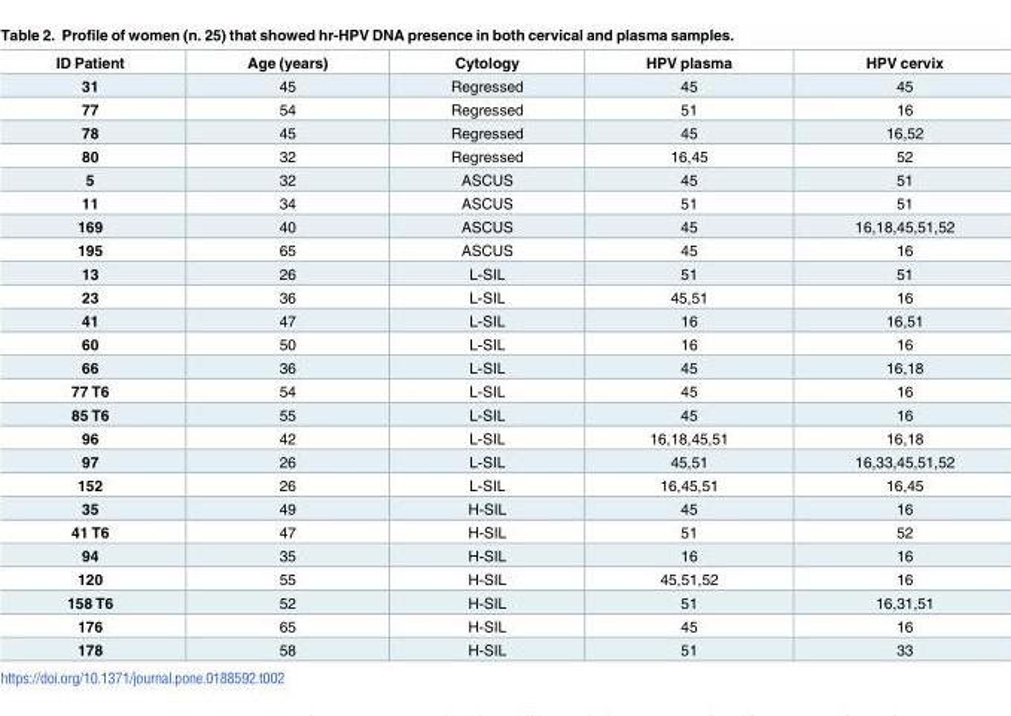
<table><thead><tr><td>ID Patient</td><td>Age (years)</td><td>Cytology</td><td>HPV plasma</td><td>HPV cervix</td></tr></thead><tbody><tr><td>31</td><td>45</td><td>Regressed</td><td>45</td><td>45</td></tr><tr><td>77</td><td>54</td><td>Regressed</td><td>51</td><td>16</td></tr><tr><td>78</td><td>45</td><td>Regressed</td><td>45</td><td>16,52</td></tr><tr><td>80</td><td>32</td><td>Regressed</td><td>16,45</td><td>52</td></tr><tr><td>5</td><td>32</td><td>ASCUS</td><td>45</td><td>51</td></tr><tr><td>11</td><td>34</td><td>ASCUS</td><td>51</td><td>51</td></tr><tr><td>169</td><td>40</td><td>ASCUS</td><td>45</td><td>16,18,45,51,52</td></tr><tr><td>195</td><td>65</td><td>ASCUS</td><td>45</td><td>16</td></tr><tr><td>13</td><td>26</td><td>L-SIL</td><td>51</td><td>51</td></tr><tr><td>23</td><td>36</td><td>L-SIL</td><td>45,51</td><td>16</td></tr><tr><td>41</td><td>47</td><td>L-SIL</td><td>16</td><td>16,51</td></tr><tr><td>60</td><td>50</td><td>L-SIL</td><td>16</td><td>16</td></tr><tr><td>66</td><td>36</td><td>L-SIL</td><td>45</td><td>16,18</td></tr><tr><td>77 T6</td><td>54</td><td>L-SIL</td><td>45</td><td>16</td></tr><tr><td>85 T6</td><td>55</td><td>L-SIL</td><td>45</td><td>16</td></tr><tr><td>96</td><td>42</td><td>L-SIL</td><td>16,18,45,51</td><td>16,18</td></tr><tr><td>97</td><td>26</td><td>L-SIL</td><td>45,51</td><td>16,33,45,51,52</td></tr><tr><td>152</td><td>26</td><td>L-SIL</td><td>16,45,51</td><td>16,45</td></tr><tr><td>35</td><td>49</td><td>H-SIL</td><td>45</td><td>16</td></tr><tr><td>41 T6</td><td>47</td><td>H-SIL</td><td>51</td><td>52</td></tr><tr><td>94</td><td>35</td><td>H-SIL</td><td>16</td><td>16</td></tr><tr><td>120</td><td>55</td><td>H-SIL</td><td>45,51,52</td><td>16</td></tr><tr><td>158 T6</td><td>52</td><td>H-SIL</td><td>51</td><td>16,31,51</td></tr><tr><td>176</td><td>65</td><td>H-SIL</td><td>45</td><td>16</td></tr><tr><td>178</td><td>58</td><td>H-SIL</td><td>51</td><td>33</td></tr></tbody></table>